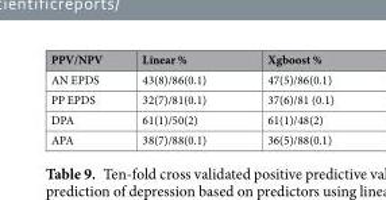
<table><thead><tr><td>PPV/NPV</td><td>Linear %</td><td>Xgboost %</td></tr></thead><tbody><tr><td>AN EPDS</td><td>43(8)/86(0.1)</td><td>47(5)/86(0.1)</td></tr><tr><td>PP EPDS</td><td>32(7)/81(0.1)</td><td>37(6)/81 (0.1)</td></tr><tr><td>DPA</td><td>61(1)/50(2)</td><td>61(1)/48(2)</td></tr><tr><td>APA</td><td>38(7)/88(0.1)</td><td>36(5)/88(0.1)</td></tr></tbody></table>